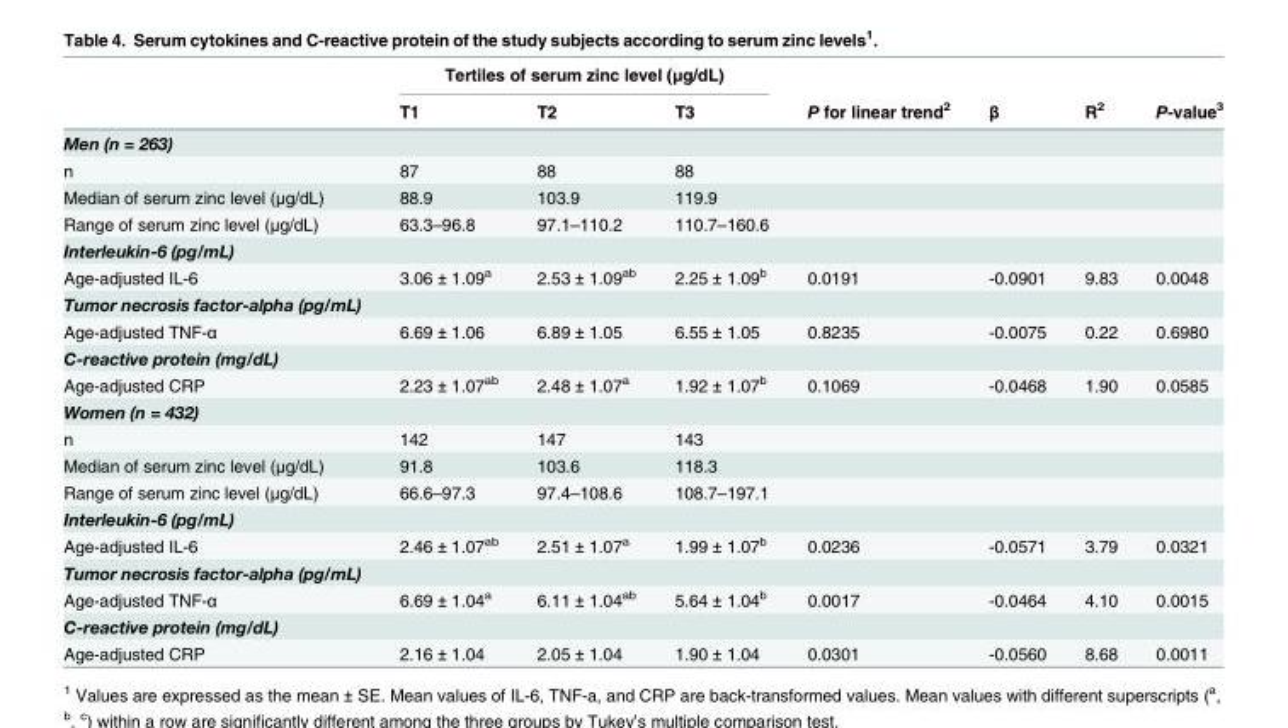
<table><thead><tr><td rowspan="2"></td><td colspan="3">Tertiles of serum zinc level (μg/dL)</td><td rowspan="2">P for linear trend<sup>2</sup></td><td rowspan="2">β</td><td rowspan="2">R<sup>2</sup></td><td rowspan="2">P-value<sup>3</sup></td></tr><tr><td>T1</td><td>T2</td><td>T3</td></tr></thead><tbody><tr><td colspan="8">Men (n = 263)</td></tr><tr><td>n</td><td>87</td><td>88</td><td>88</td><td></td><td></td><td></td><td></td></tr><tr><td>Median of serum zinc level (μg/dL)</td><td>88.9</td><td>103.9</td><td>119.9</td><td></td><td></td><td></td><td></td></tr><tr><td>Range of serum zinc level (μg/dL)</td><td>63.3–96.8</td><td>97.1–110.2</td><td>110.7–160.6</td><td></td><td></td><td></td><td></td></tr><tr><td colspan="8">Interleukin-6 (pg/mL)</td></tr><tr><td>Age-adjusted IL-6</td><td>3.06 ± 1.09<sup>a</sup></td><td>2.53 ± 1.09<sup>ab</sup></td><td>2.25 ± 1.09<sup>b</sup></td><td>0.0191</td><td>-0.0901</td><td>9.83</td><td>0.0048</td></tr><tr><td colspan="8">Tumor necrosis factor-alpha (pg/mL)</td></tr><tr><td>Age-adjusted TNF-α</td><td>6.69 ± 1.06</td><td>6.89 ± 1.05</td><td>6.55 ± 1.05</td><td>0.8235</td><td>-0.0075</td><td>0.22</td><td>0.6980</td></tr><tr><td colspan="8">C-reactive protein (mg/dL)</td></tr><tr><td>Age-adjusted CRP</td><td>2.23 ± 1.07<sup>ab</sup></td><td>2.48 ± 1.07<sup>a</sup></td><td>1.92 ± 1.07<sup>b</sup></td><td>0.1069</td><td>-0.0468</td><td>1.90</td><td>0.0585</td></tr><tr><td colspan="8">Women (n = 432)</td></tr><tr><td>n</td><td>142</td><td>147</td><td>143</td><td></td><td></td><td></td><td></td></tr><tr><td>Median of serum zinc level (μg/dL)</td><td>91.8</td><td>103.6</td><td>118.3</td><td></td><td></td><td></td><td></td></tr><tr><td>Range of serum zinc level (μg/dL)</td><td>66.6–97.3</td><td>97.4–108.6</td><td>108.7–197.1</td><td></td><td></td><td></td><td></td></tr><tr><td colspan="8">Interleukin-6 (pg/mL)</td></tr><tr><td>Age-adjusted IL-6</td><td>2.46 ± 1.07<sup>ab</sup></td><td>2.51 ± 1.07<sup>a</sup></td><td>1.99 ± 1.07<sup>b</sup></td><td>0.0236</td><td>-0.0571</td><td>3.79</td><td>0.0321</td></tr><tr><td colspan="8">Tumor necrosis factor-alpha (pg/mL)</td></tr><tr><td>Age-adjusted TNF-α</td><td>6.69 ± 1.04<sup>a</sup></td><td>6.11 ± 1.04<sup>ab</sup></td><td>5.64 ± 1.04<sup>b</sup></td><td>0.0017</td><td>-0.0464</td><td>4.10</td><td>0.0015</td></tr><tr><td colspan="8">C-reactive protein (mg/dL)</td></tr><tr><td>Age-adjusted CRP</td><td>2.16 ± 1.04</td><td>2.05 ± 1.04</td><td>1.90 ± 1.04</td><td>0.0301</td><td>-0.0560</td><td>8.68</td><td>0.0011</td></tr></tbody></table>